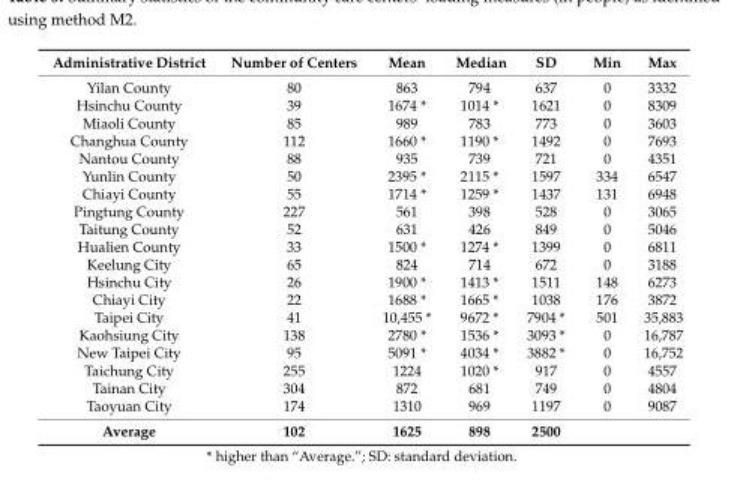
<table><thead><tr><td>Administrative District</td><td>Number of Centers</td><td>Mean</td><td>Median</td><td>SD</td><td>Min</td><td>Max</td></tr></thead><tbody><tr><td>Yilan County</td><td>80</td><td>863</td><td>794</td><td>637</td><td>0</td><td>3332</td></tr><tr><td>Hsinchu County</td><td>39</td><td>1674 *</td><td>1014 *</td><td>1621</td><td>0</td><td>8309</td></tr><tr><td>Miaoli County</td><td>85</td><td>989</td><td>783</td><td>773</td><td>0</td><td>3603</td></tr><tr><td>Changhua County</td><td>112</td><td>1660 *</td><td>1190 *</td><td>1492</td><td>0</td><td>7693</td></tr><tr><td>Nantou County</td><td>88</td><td>935</td><td>739</td><td>721</td><td>0</td><td>4351</td></tr><tr><td>Yunlin County</td><td>50</td><td>2395 *</td><td>2115 *</td><td>1597</td><td>334</td><td>6547</td></tr><tr><td>Chiayi County</td><td>55</td><td>1714 *</td><td>1259 *</td><td>1437</td><td>131</td><td>6948</td></tr><tr><td>Pingtung County</td><td>227</td><td>561</td><td>398</td><td>528</td><td>0</td><td>3065</td></tr><tr><td>Taitung County</td><td>52</td><td>631</td><td>426</td><td>849</td><td>0</td><td>5046</td></tr><tr><td>Hualien County</td><td>33</td><td>1500 *</td><td>1274 *</td><td>1399</td><td>0</td><td>6811</td></tr><tr><td>Keelung City</td><td>65</td><td>824</td><td>714</td><td>672</td><td>0</td><td>3188</td></tr><tr><td>Hsinchu City</td><td>26</td><td>1900 *</td><td>1413 *</td><td>1511</td><td>148</td><td>6273</td></tr><tr><td>Chiayi City</td><td>22</td><td>1688 *</td><td>1665 *</td><td>1038</td><td>176</td><td>3872</td></tr><tr><td>Taipei City</td><td>41</td><td>10,455 *</td><td>9672 *</td><td>7904 *</td><td>501</td><td>35,883</td></tr><tr><td>Kaohsiung City</td><td>138</td><td>2780 *</td><td>1536 *</td><td>3093 *</td><td>0</td><td>16,787</td></tr><tr><td>New Taipei City</td><td>95</td><td>5091 *</td><td>4034 *</td><td>3882 *</td><td>0</td><td>16,752</td></tr><tr><td>Taichung City</td><td>255</td><td>1224</td><td>1020 *</td><td>917</td><td>0</td><td>4557</td></tr><tr><td>Tainan City</td><td>304</td><td>872</td><td>681</td><td>749</td><td>0</td><td>4804</td></tr><tr><td>Taoyuan City</td><td>174</td><td>1310</td><td>969</td><td>1197</td><td>0</td><td>9087</td></tr><tr><td>Average</td><td>102</td><td>1625</td><td>898</td><td>2500</td><td></td><td></td></tr></tbody></table>